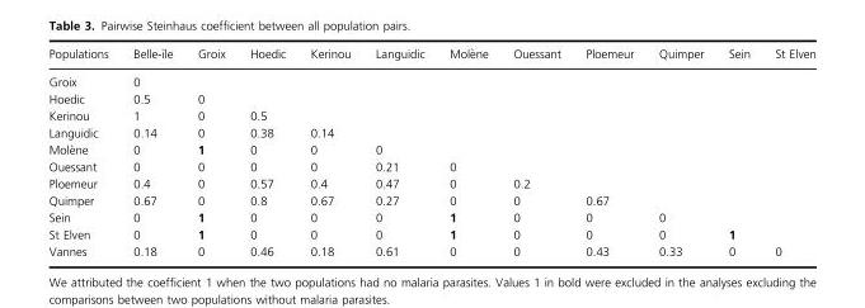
<table><thead><tr><td>Populations</td><td>Belle-^ıle</td><td>Groix</td><td>Hoedic</td><td>Kerinou</td><td>Languidic</td><td>Mol�ene</td><td>Ouessant</td><td>Ploemeur</td><td>Quimper</td><td>Sein</td><td>St Elven</td></tr></thead><tbody><tr><td>Groix</td><td>0</td><td></td><td></td><td></td><td></td><td></td><td></td><td></td><td></td><td></td><td></td></tr><tr><td>Hoedic</td><td>0.5</td><td>0</td><td></td><td></td><td></td><td></td><td></td><td></td><td></td><td></td><td></td></tr><tr><td>Kerinou</td><td>1</td><td>0</td><td>0.5</td><td></td><td></td><td></td><td></td><td></td><td></td><td></td><td></td></tr><tr><td>Languidic</td><td>0.14</td><td>0</td><td>0.38</td><td>0.14</td><td></td><td></td><td></td><td></td><td></td><td></td><td></td></tr><tr><td>Mol�ene</td><td>0</td><td>1</td><td>0</td><td>0</td><td>0</td><td></td><td></td><td></td><td></td><td></td><td></td></tr><tr><td>Ouessant</td><td>0</td><td>0</td><td>0</td><td>0</td><td>0.21</td><td>0</td><td></td><td></td><td></td><td></td><td></td></tr><tr><td>Ploemeur</td><td>0.4</td><td>0</td><td>0.57</td><td>0.4</td><td>0.47</td><td>0</td><td>0.2</td><td></td><td></td><td></td><td></td></tr><tr><td>Quimper</td><td>0.67</td><td>0</td><td>0.8</td><td>0.67</td><td>0.27</td><td>0</td><td>0</td><td>0.67</td><td></td><td></td><td></td></tr><tr><td>Sein</td><td>0</td><td>1</td><td>0</td><td>0</td><td>0</td><td>1</td><td>0</td><td>0</td><td>0</td><td></td><td></td></tr><tr><td>St Elven</td><td>0</td><td>1</td><td>0</td><td>0</td><td>0</td><td>1</td><td>0</td><td>0</td><td>0</td><td>1</td><td></td></tr><tr><td>Vannes</td><td>0.18</td><td>0</td><td>0.46</td><td>0.18</td><td>0.61</td><td>0</td><td>0</td><td>0.43</td><td>0.33</td><td>0</td><td>0</td></tr></tbody></table>